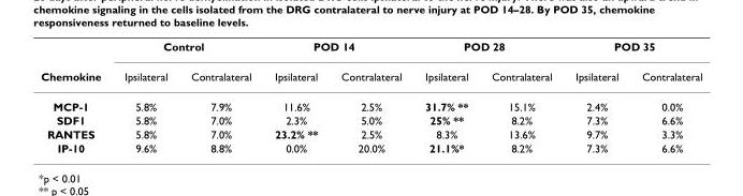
<table><thead><tr><td rowspan="2">Chemokine</td><td colspan="2">Control</td><td colspan="2">POD 14</td><td colspan="2">POD 28</td><td colspan="2">POD 35</td></tr><tr><td>Ipsilateral</td><td>Contralateral</td><td>Ipsilateral</td><td>Contralateral</td><td>Ipsilateral</td><td>Contralateral</td><td>Ipsilateral</td><td>Contralateral</td></tr></thead><tbody><tr><td>MCP-1</td><td>5.8%</td><td>7.9%</td><td>11.6%</td><td>2.5%</td><td>31.7% **</td><td>15.1%</td><td>2.4%</td><td>0.0%</td></tr><tr><td>SDF1</td><td>5.8%</td><td>7.0%</td><td>2.3%</td><td>5.0%</td><td>25% **</td><td>8.2%</td><td>7.3%</td><td>6.6%</td></tr><tr><td>RANTES</td><td>5.8%</td><td>7.0%</td><td>23.2% **</td><td>2.5%</td><td>8.3%</td><td>13.6%</td><td>9.7%</td><td>3.3%</td></tr><tr><td>IP-10</td><td>9.6%</td><td>8.8%</td><td>0.0%</td><td>20.0%</td><td>21.1%*</td><td>8.2%</td><td>7.3%</td><td>6.6%</td></tr></tbody></table>